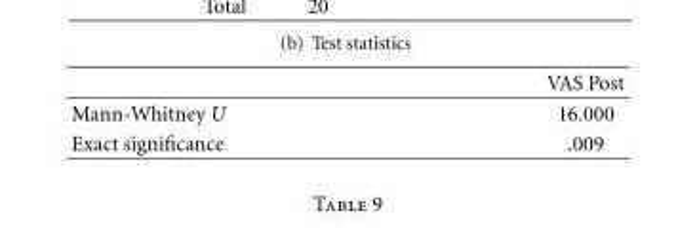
<table><thead><tr><td></td><td>VAS Post</td></tr></thead><tbody><tr><td>Mann-Whitney U</td><td>16.000</td></tr><tr><td>Exact significance</td><td>.009</td></tr></tbody></table>